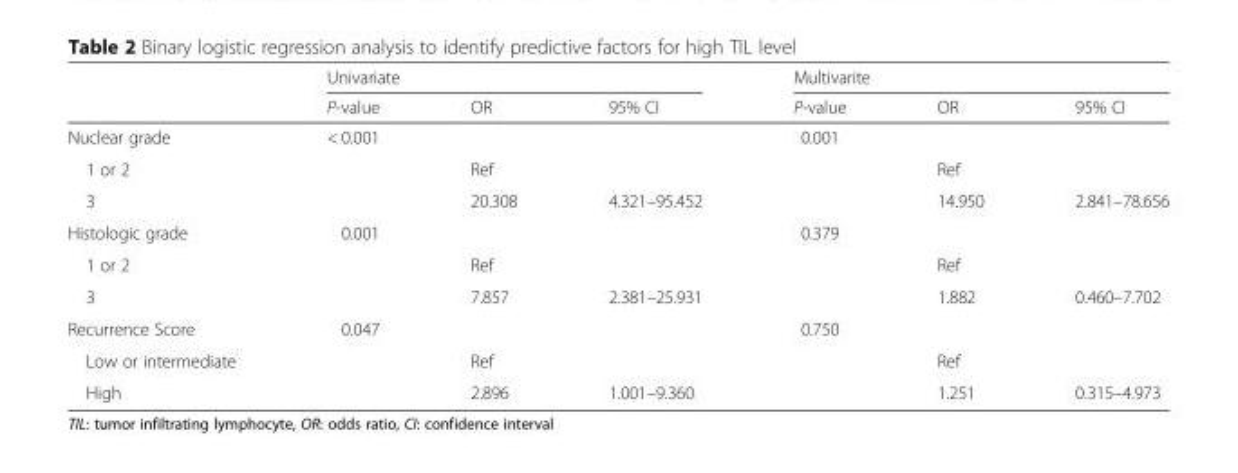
<table><thead><tr><td rowspan="2"></td><td colspan="3">Univariate</td><td colspan="3">Multivarite</td></tr><tr><td>P-value</td><td>OR</td><td>95% CI</td><td>P-value</td><td>OR</td><td>95% CI</td></tr></thead><tbody><tr><td>Nuclear grade</td><td>&lt; 0.001</td><td></td><td></td><td>0.001</td><td></td><td></td></tr><tr><td>1 or 2</td><td></td><td>Ref</td><td></td><td></td><td>Ref</td><td></td></tr><tr><td>3</td><td></td><td>20.308</td><td>4.321–95.452</td><td></td><td>14.950</td><td>2.841–78.656</td></tr><tr><td>Histologic grade</td><td>0.001</td><td></td><td></td><td>0.379</td><td></td><td></td></tr><tr><td>1 or 2</td><td></td><td>Ref</td><td></td><td></td><td>Ref</td><td></td></tr><tr><td>3</td><td></td><td>7.857</td><td>2.381–25.931</td><td></td><td>1.882</td><td>0.460–7.702</td></tr><tr><td>Recurrence Score</td><td>0.047</td><td></td><td></td><td>0.750</td><td></td><td></td></tr><tr><td>Low or intermediate</td><td></td><td>Ref</td><td></td><td></td><td>Ref</td><td></td></tr><tr><td>High</td><td></td><td>2.896</td><td>1.001–9.360</td><td></td><td>1.251</td><td>0.315–4.973</td></tr></tbody></table>